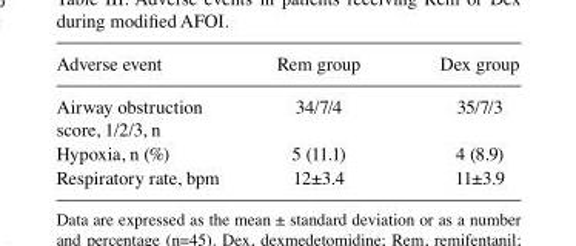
<table><thead><tr><td>Adverse event</td><td>Rem group</td><td>Dex group</td></tr></thead><tbody><tr><td>Airway obstruction score, 1/2/3, n</td><td>34/7/4</td><td>35/7/3</td></tr><tr><td>Hypoxia, n (%)</td><td>5 (11.1)</td><td>4 (8.9)</td></tr><tr><td>Respiratory rate, bpm</td><td>12±3.4</td><td>11±3.9</td></tr></tbody></table>